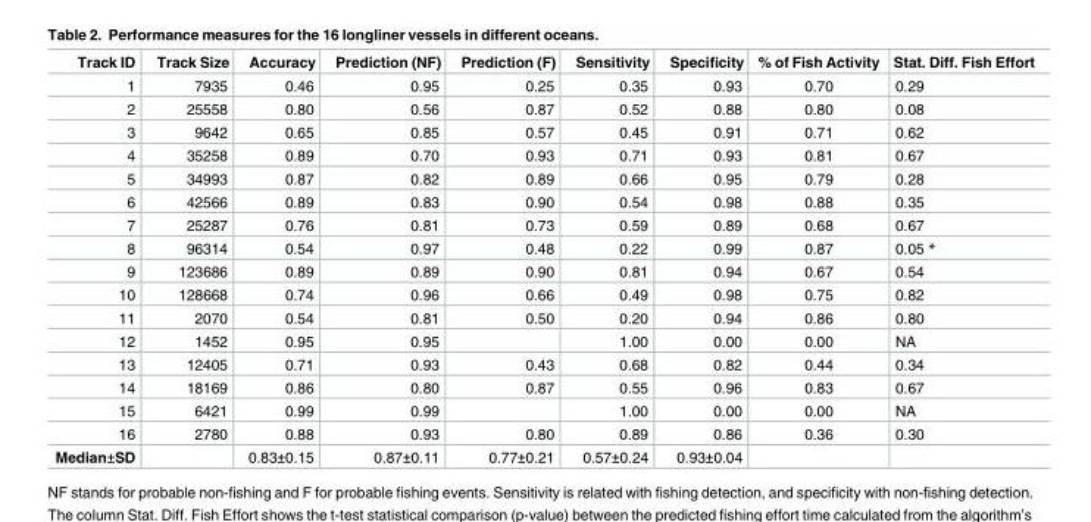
<table><thead><tr><td>Track ID</td><td>Track Size</td><td>Accuracy</td><td>Prediction (NF)</td><td>Prediction (F)</td><td>Sensitivity</td><td>Specificity</td><td>% of Fish Activity</td><td>Stat. Diff. Fish Effort</td></tr></thead><tbody><tr><td>1</td><td>7935</td><td>0.46</td><td>0.95</td><td>0.25</td><td>0.35</td><td>0.93</td><td>0.70</td><td>0.29</td></tr><tr><td>2</td><td>25558</td><td>0.80</td><td>0.56</td><td>0.87</td><td>0.52</td><td>0.88</td><td>0.80</td><td>0.08</td></tr><tr><td>3</td><td>9642</td><td>0.65</td><td>0.85</td><td>0.57</td><td>0.45</td><td>0.91</td><td>0.71</td><td>0.62</td></tr><tr><td>4</td><td>35258</td><td>0.89</td><td>0.70</td><td>0.93</td><td>0.71</td><td>0.93</td><td>0.81</td><td>0.67</td></tr><tr><td>5</td><td>34993</td><td>0.87</td><td>0.82</td><td>0.89</td><td>0.66</td><td>0.95</td><td>0.79</td><td>0.28</td></tr><tr><td>6</td><td>42566</td><td>0.89</td><td>0.83</td><td>0.90</td><td>0.54</td><td>0.98</td><td>0.88</td><td>0.35</td></tr><tr><td>7</td><td>25287</td><td>0.76</td><td>0.81</td><td>0.73</td><td>0.59</td><td>0.89</td><td>0.68</td><td>0.67</td></tr><tr><td>8</td><td>96314</td><td>0.54</td><td>0.97</td><td>0.48</td><td>0.22</td><td>0.99</td><td>0.87</td><td>0.05 *</td></tr><tr><td>9</td><td>123686</td><td>0.89</td><td>0.89</td><td>0.90</td><td>0.81</td><td>0.94</td><td>0.67</td><td>0.54</td></tr><tr><td>10</td><td>128668</td><td>0.74</td><td>0.96</td><td>0.66</td><td>0.49</td><td>0.98</td><td>0.75</td><td>0.82</td></tr><tr><td>11</td><td>2070</td><td>0.54</td><td>0.81</td><td>0.50</td><td>0.20</td><td>0.94</td><td>0.86</td><td>0.80</td></tr><tr><td>12</td><td>1452</td><td>0.95</td><td>0.95</td><td></td><td>1.00</td><td>0.00</td><td>0.00</td><td>NA</td></tr><tr><td>13</td><td>12405</td><td>0.71</td><td>0.93</td><td>0.43</td><td>0.68</td><td>0.82</td><td>0.44</td><td>0.34</td></tr><tr><td>14</td><td>18169</td><td>0.86</td><td>0.80</td><td>0.87</td><td>0.55</td><td>0.96</td><td>0.83</td><td>0.67</td></tr><tr><td>15</td><td>6421</td><td>0.99</td><td>0.99</td><td></td><td>1.00</td><td>0.00</td><td>0.00</td><td>NA</td></tr><tr><td>16</td><td>2780</td><td>0.88</td><td>0.93</td><td>0.80</td><td>0.89</td><td>0.86</td><td>0.36</td><td>0.30</td></tr><tr><td>Median±SD</td><td></td><td>0.83±0.15</td><td>0.87±0.11</td><td>0.77±0.21</td><td>0.57±0.24</td><td>0.93±0.04</td><td></td><td></td></tr></tbody></table>